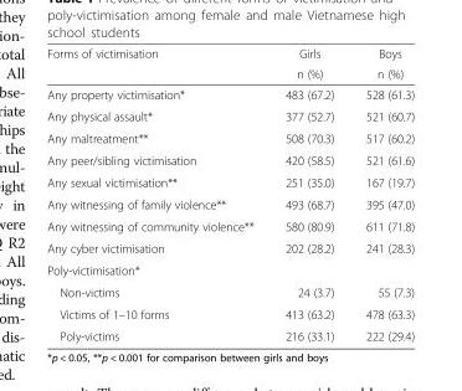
<table><thead><tr><td rowspan="2">Forms of victimisation</td><td rowspan="2">Girls n (%)</td><td rowspan="2">Boys n (%)</td></tr><tr></tr></thead><tbody><tr><td>Any property victimisation*</td><td>483 (67.2)</td><td>528 (61.3)</td></tr><tr><td>Any physical assault*</td><td>377 (52.7)</td><td>521 (60.7)</td></tr><tr><td>Any maltreatment**</td><td>508 (70.3)</td><td>517 (60.2)</td></tr><tr><td>Any peer/sibling victimisation</td><td>420 (58.5)</td><td>521 (61.6)</td></tr><tr><td>Any sexual victimisation**</td><td>251 (35.0)</td><td>167 (19.7)</td></tr><tr><td>Any witnessing of family violence**</td><td>493 (68.7)</td><td>395 (47.0)</td></tr><tr><td>Any witnessing of community violence**</td><td>580 (80.9)</td><td>611 (71.8)</td></tr><tr><td>Any cyber victimisation</td><td>202 (28.2)</td><td>241 (28.3)</td></tr><tr><td colspan="3">Poly-victimisation*</td></tr><tr><td>Non-victims</td><td>24 (3.7)</td><td>55 (7.3)</td></tr><tr><td>Victims of 1–10 forms</td><td>413 (63.2)</td><td>478 (63.3)</td></tr><tr><td>Poly-victims</td><td>216 (33.1)</td><td>222 (29.4)</td></tr></tbody></table>